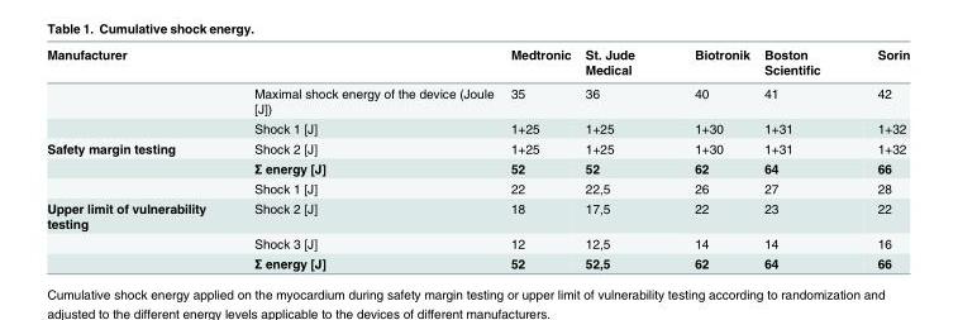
<table><thead><tr><td>Manufacturer</td><td></td><td>Medtronic</td><td>St. Jude Medical</td><td>Biotronik</td><td>Boston Scientific</td><td>Sorin</td></tr></thead><tbody><tr><td></td><td>Maximal shock energy of the device (Joule [J])</td><td>35</td><td>36</td><td>40</td><td>41</td><td>42</td></tr><tr><td></td><td>Shock 1 [J]</td><td>1+25</td><td>1+25</td><td>1+30</td><td>1+31</td><td>1+32</td></tr><tr><td rowspan="3">Safety margin testing</td><td>Shock 2 [J]</td><td>1+25</td><td>1+25</td><td>1+30</td><td>1+31</td><td>1+32</td></tr><tr><td>Σ energy [J]</td><td>52</td><td>52</td><td>62</td><td>64</td><td>66</td></tr><tr><td>Shock 1 [J]</td><td>22</td><td>22,5</td><td>26</td><td>27</td><td>28</td></tr><tr><td rowspan="3">Upper limit of vulnerability testing</td><td>Shock 2 [J]</td><td>18</td><td>17,5</td><td>22</td><td>23</td><td>22</td></tr><tr><td>Shock 3 [J]</td><td>12</td><td>12,5</td><td>14</td><td>14</td><td>16</td></tr><tr><td>Σ energy [J]</td><td>52</td><td>52,5</td><td>62</td><td>64</td><td>66</td></tr></tbody></table>